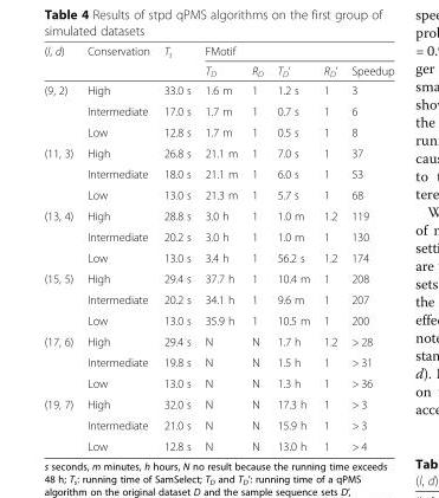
<table><thead><tr><td rowspan="2">(l, d)</td><td rowspan="2">Conservation</td><td rowspan="2">T<sub>s</sub></td><td colspan="5">FMotif</td></tr><tr><td>T<sub>D</sub></td><td>R<sub>D</sub></td><td>T<sub>D</sub>’</td><td>R<sub>D</sub>’</td><td>Speedup</td></tr></thead><tbody><tr><td rowspan="3">(9, 2)</td><td>High</td><td>33.0 s</td><td>1.6 m</td><td>1</td><td>1.2 s</td><td>1</td><td>3</td></tr><tr><td>Intermediate</td><td>17.0 s</td><td>1.7 m</td><td>1</td><td>0.7 s</td><td>1</td><td>6</td></tr><tr><td>Low</td><td>12.8 s</td><td>1.7 m</td><td>1</td><td>0.5 s</td><td>1</td><td>8</td></tr><tr><td rowspan="3">(11, 3)</td><td>High</td><td>26.8 s</td><td>21.1 m</td><td>1</td><td>7.0 s</td><td>1</td><td>37</td></tr><tr><td>Intermediate</td><td>18.0 s</td><td>21.1 m</td><td>1</td><td>6.0 s</td><td>1</td><td>53</td></tr><tr><td>Low</td><td>13.0 s</td><td>21.3 m</td><td>1</td><td>5.7 s</td><td>1</td><td>68</td></tr><tr><td rowspan="3">(13, 4)</td><td>High</td><td>28.8 s</td><td>3.0 h</td><td>1</td><td>1.0 m</td><td>1.2</td><td>119</td></tr><tr><td>Intermediate</td><td>20.2 s</td><td>3.0 h</td><td>1</td><td>1.0 m</td><td>1</td><td>130</td></tr><tr><td>Low</td><td>13.0 s</td><td>3.4 h</td><td>1</td><td>56.2 s</td><td>1.2</td><td>174</td></tr><tr><td rowspan="3">(15, 5)</td><td>High</td><td>29.4 s</td><td>37.7 h</td><td>1</td><td>10.4 m</td><td>1</td><td>208</td></tr><tr><td>Intermediate</td><td>20.2 s</td><td>34.1 h</td><td>1</td><td>9.6 m</td><td>1</td><td>207</td></tr><tr><td>Low</td><td>13.0 s</td><td>35.9 h</td><td>1</td><td>10.5 m</td><td>1</td><td>200</td></tr><tr><td rowspan="3">(17, 6)</td><td>High</td><td>29.4 s</td><td>N</td><td>N</td><td>1.7 h</td><td>1.2</td><td>&gt; 28</td></tr><tr><td>Intermediate</td><td>19.8 s</td><td>N</td><td>N</td><td>1.5 h</td><td>1</td><td>&gt; 31</td></tr><tr><td>Low</td><td>13.0 s</td><td>N</td><td>N</td><td>1.3 h</td><td>1</td><td>&gt; 36</td></tr><tr><td rowspan="3">(19, 7)</td><td>High</td><td>32.0 s</td><td>N</td><td>N</td><td>17.3 h</td><td>1</td><td>&gt; 3</td></tr><tr><td>Intermediate</td><td>21.0 s</td><td>N</td><td>N</td><td>15.9 h</td><td>1</td><td>&gt; 3</td></tr><tr><td>Low</td><td>12.8 s</td><td>N</td><td>N</td><td>13.0 h</td><td>1</td><td>&gt; 4</td></tr></tbody></table>